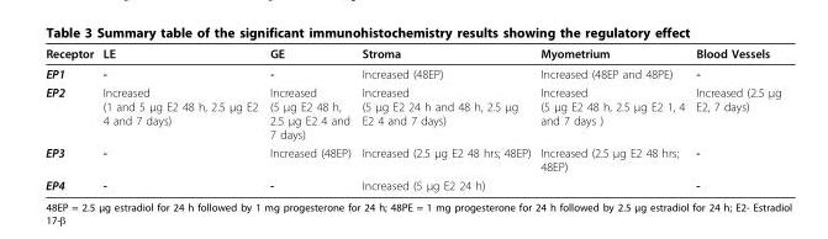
<table><thead><tr><td>Receptor</td><td>LE</td><td>GE</td><td>Stroma</td><td>Myometrium</td><td>Blood Vessels</td></tr></thead><tbody><tr><td>EP1</td><td>-</td><td>-</td><td>Increased (48EP)</td><td>Increased (48EP and 48PE)</td><td>-</td></tr><tr><td>EP2</td><td>Increased (1 and 5 μg E2 48 h, 2.5 μg E2 4 and 7 days)</td><td>Increased (5 μg E2 48 h, 2.5 μg E2 4 and 7 days)</td><td>Increased (5 μg E2 24 h and 48 h, 2.5 μg E2 4 and 7 days)</td><td>Increased (5 μg E2 48 h, 2.5 μg E2 1, 4 and 7 days )</td><td>Increased (2.5 μg E2, 7 days)</td></tr><tr><td>EP3</td><td>-</td><td>Increased (48EP)</td><td>Increased (2.5 μg E2 48 hrs; 48EP)</td><td>Increased (2.5 μg E2 48 hrs; 48EP)</td><td>-</td></tr><tr><td>EP4</td><td>-</td><td>-</td><td>Increased (5 μg E2 24 h)</td><td></td><td>-</td></tr></tbody></table>